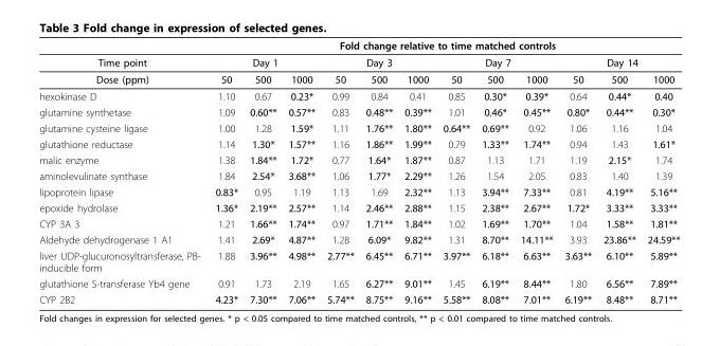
<table><thead><tr><td rowspan="3">Time point Dose (ppm)</td><td colspan="12">Fold change relative to time matched controls</td></tr><tr><td colspan="3">Day 1</td><td colspan="3">Day 3</td><td colspan="3">Day 7</td><td colspan="3">Day 14</td></tr><tr><td>50</td><td>500</td><td>1000</td><td>50</td><td>500</td><td>1000</td><td>50</td><td>500</td><td>1000</td><td>50</td><td>500</td><td>1000</td></tr></thead><tbody><tr><td>hexokinase D</td><td>1.10</td><td>0.67</td><td>0.23*</td><td>0.99</td><td>0.84</td><td>0.41</td><td>0.85</td><td>0.30*</td><td>0.39*</td><td>0.64</td><td>0.44*</td><td>0.40</td></tr><tr><td>glutamine synthetase</td><td>1.09</td><td>0.60**</td><td>0.57**</td><td>0.83</td><td>0.48**</td><td>0.39**</td><td>1.01</td><td>0.46*</td><td>0.45**</td><td>0.80*</td><td>0.44**</td><td>0.30*</td></tr><tr><td>glutamine cysteine ligase</td><td>1.00</td><td>1.28</td><td>1.59*</td><td>1.11</td><td>1.76**</td><td>1.80**</td><td>0.64**</td><td>0.69**</td><td>0.92</td><td>1.06</td><td>1.16</td><td>1.04</td></tr><tr><td>glutathione reductase</td><td>1.14</td><td>1.30*</td><td>1.57**</td><td>1.16</td><td>1.86**</td><td>1.99**</td><td>0.79</td><td>1.33**</td><td>1.74**</td><td>0.94</td><td>1.43</td><td>1.61*</td></tr><tr><td>malic enzyme</td><td>1.38</td><td>1.84**</td><td>1.72*</td><td>0.77</td><td>1.64*</td><td>1.87**</td><td>0.87</td><td>1.13</td><td>1.71</td><td>1.19</td><td>2.15*</td><td>1.74</td></tr><tr><td>aminolevulinate synthase</td><td>1.84</td><td>2.54*</td><td>3.68**</td><td>1.06</td><td>1.77*</td><td>2.29**</td><td>1.26</td><td>1.54</td><td>2.05</td><td>0.83</td><td>1.40</td><td>1.39</td></tr><tr><td>lipoprotein lipase</td><td>0.83*</td><td>0.95</td><td>1.19</td><td>1.13</td><td>1.69</td><td>2.32**</td><td>1.13</td><td>3.94**</td><td>7.33**</td><td>0.81</td><td>4.19**</td><td>5.16**</td></tr><tr><td>epoxide hydrolase</td><td>1.36*</td><td>2.19**</td><td>2.57**</td><td>1.14</td><td>2.46**</td><td>2.88**</td><td>1.15</td><td>2.38**</td><td>2.67**</td><td>1.72*</td><td>3.33**</td><td>3.33**</td></tr><tr><td>CYP 3A 3</td><td>1.21</td><td>1.66**</td><td>1.74**</td><td>0.97</td><td>1.71**</td><td>1.84**</td><td>1.02</td><td>1.69**</td><td>1.70**</td><td>1.04</td><td>1.58**</td><td>1.81**</td></tr><tr><td>Aldehyde dehydrogenase 1 A1</td><td>1.41</td><td>2.69*</td><td>4.87**</td><td>1.28</td><td>6.09*</td><td>9.82**</td><td>1.31</td><td>8.70**</td><td>14.11**</td><td>3.93</td><td>23.86**</td><td>24.59**</td></tr><tr><td>liver UDP-glucuronosyltransferase, PB- inducible form</td><td>1.88</td><td>3.96**</td><td>4.98**</td><td>2.77**</td><td>6.45**</td><td>6.71**</td><td>3.97**</td><td>6.18**</td><td>6.63**</td><td>3.63**</td><td>6.10**</td><td>5.89**</td></tr><tr><td>glutathione S-transferase Yb4 gene</td><td>0.91</td><td>1.73</td><td>2.19</td><td>1.65</td><td>6.27**</td><td>9.01**</td><td>1.45</td><td>6.19**</td><td>8.44**</td><td>1.80</td><td>6.56**</td><td>7.89**</td></tr><tr><td>CYP 2B2</td><td>4.23*</td><td>7.30**</td><td>7.06**</td><td>5.74**</td><td>8.75**</td><td>9.16**</td><td>5.58**</td><td>8.08**</td><td>7.01**</td><td>6.19**</td><td>8.48**</td><td>8.71**</td></tr></tbody></table>